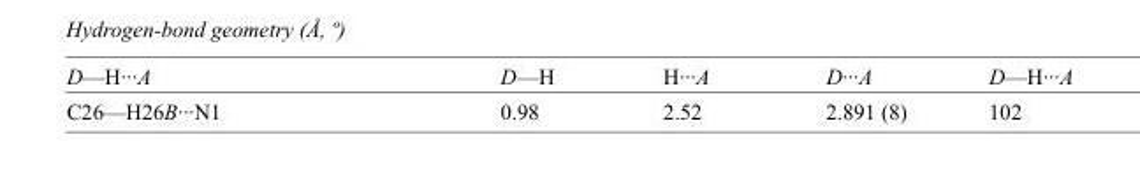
<table><tbody><tr><td>D—H···A</td><td>D—H</td><td>H···A</td><td>D···A</td><td>D—H···A</td></tr><tr><td>C26—H26B···N1</td><td>0.98</td><td>2.52</td><td>2.891 (8)</td><td>102</td></tr></tbody></table>